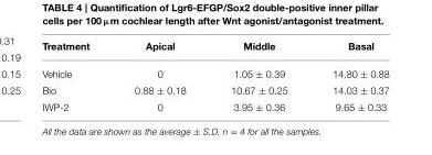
<table><thead><tr><td>Treatment</td><td>Apical</td><td>Middle</td><td>Basal</td></tr></thead><tbody><tr><td>Vehicle</td><td>0</td><td>1.05 ± 0.39</td><td>14.80 ± 0.88</td></tr><tr><td>Bio</td><td>0.88 ± 0.18</td><td>10.67 ± 0.25</td><td>14.03 ± 0.37</td></tr><tr><td>IWP-2</td><td>0</td><td>3.95 ± 0.36</td><td>9.65 ± 0.33</td></tr></tbody></table>